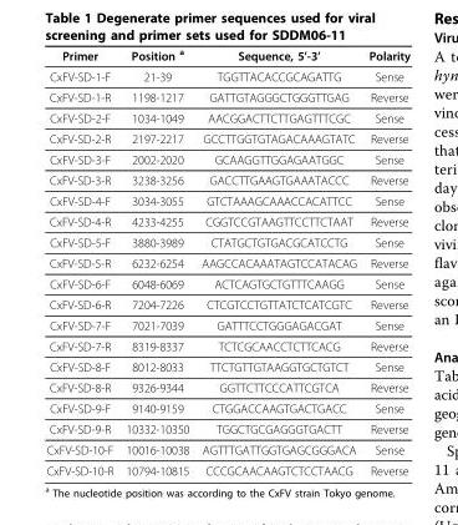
<table><thead><tr><td>Primer</td><td>Position <sup>a</sup></td><td>Sequence, 5’-3’</td><td>Polarity</td></tr></thead><tbody><tr><td>CxFV-SD-1-F</td><td>21-39</td><td>TGGTTACACCGCAGATTG</td><td>Sense</td></tr><tr><td>CxFV-SD-1-R</td><td>1198-1217</td><td>GATTGTAGGGCTGGGTTGAG</td><td>Reverse</td></tr><tr><td>CxFV-SD-2-F</td><td>1034-1049</td><td>AACGGACTTCTTGAGTTTCGC</td><td>Sense</td></tr><tr><td>CxFV-SD-2-R</td><td>2197-2217</td><td>GCCTTGGTGTAGACAAAGTATC</td><td>Reverse</td></tr><tr><td>CxFV-SD-3-F</td><td>2002-2020</td><td>GCAAGGTTGGAGAATGGC</td><td>Sense</td></tr><tr><td>CxFV-SD-3-R</td><td>3238-3256</td><td>GACCTTGAAGTGAAATACCC</td><td>Reverse</td></tr><tr><td>CxFV-SD-4-F</td><td>3034-3055</td><td>GTCTAAAGCAAACCACATTCC</td><td>Sense</td></tr><tr><td>CxFV-SD-4-R</td><td>4233-4255</td><td>CGGTCCGTAAGTTCCTTCTAAT</td><td>Reverse</td></tr><tr><td>CxFV-SD-5-F</td><td>3880-3989</td><td>CTATGCTGTGACGCATCCTG</td><td>Sense</td></tr><tr><td>CxFV-SD-5-R</td><td>6232-6254</td><td>AAGCCACAAATAGTCCATACAG</td><td>Reverse</td></tr><tr><td>CxFV-SD-6-F</td><td>6048-6069</td><td>ACTCAGTGCTGTTTCAAGG</td><td>Sense</td></tr><tr><td>CxFV-SD-6-R</td><td>7204-7226</td><td>CTCGTCCTGTTATCTCATCGTC</td><td>Reverse</td></tr><tr><td>CxFV-SD-7-F</td><td>7021-7039</td><td>GATTTCCTGGGAGACGAT</td><td>Sense</td></tr><tr><td>CxFV-SD-7-R</td><td>8319-8337</td><td>TCTCGCAACCTCTTCACG</td><td>Reverse</td></tr><tr><td>CxFV-SD-8-F</td><td>8012-8033</td><td>TTCTGTTGTAAGGTGCTGTCT</td><td>Sense</td></tr><tr><td>CxFV-SD-8-R</td><td>9326-9344</td><td>GGTTCTTCCCATTCGTCA</td><td>Reverse</td></tr><tr><td>CxFV-SD-9-F</td><td>9140-9159</td><td>CTGGACCAAGTGACTGACC</td><td>Sense</td></tr><tr><td>CxFV-SD-9-R</td><td>10332-10350</td><td>TGGCTGCGAGGGTGACTT</td><td>Reverse</td></tr><tr><td>CxFV-SD-10-F</td><td>10016-10038</td><td>AGTTTGATTGGTGAGCGGGACA</td><td>Sense</td></tr><tr><td>CxFV-SD-10-R</td><td>10794-10815</td><td>CCCGCAACAAGTCTCCTAACG</td><td>Reverse</td></tr></tbody></table>